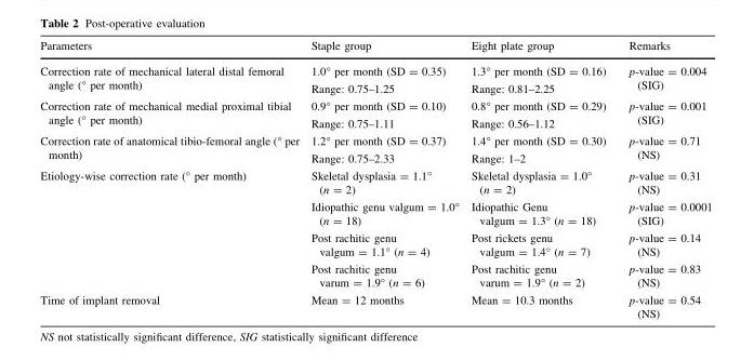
<table><thead><tr><td>Parameters</td><td>Staple group</td><td>Eight plate group</td><td>Remarks</td></tr></thead><tbody><tr><td rowspan="2">Correction rate of mechanical lateral distal femoral angle (° per month)</td><td>1.0° per month (SD = 0.35)</td><td>1.3° per month (SD = 0.16)</td><td rowspan="2">p-value = 0.004 (SIG)</td></tr><tr><td>Range: 0.75–1.25</td><td>Range: 0.81–2.25</td></tr><tr><td rowspan="2">Correction rate of mechanical medial proximal tibial angle (° per month)</td><td>0.9° per month (SD = 0.10)</td><td>0.8° per month (SD = 0.29)</td><td rowspan="2">p-value = 0.001 (SIG)</td></tr><tr><td>Range: 0.75–1.11</td><td>Range: 0.56–1.12</td></tr><tr><td rowspan="2">Correction rate of anatomical tibio-femoral angle (° per month)</td><td>1.2° per month (SD = 0.37)</td><td>1.4° per month (SD = 0.30)</td><td rowspan="2">p-value = 0.71 (NS)</td></tr><tr><td>Range: 0.75–2.33</td><td>Range: 1–2</td></tr><tr><td rowspan="4">Etiology-wise correction rate (° per month)</td><td>Skeletal dysplasia = 1.1° (n = 2)</td><td>Skeletal dysplasia = 1.0° (n = 2)</td><td>p-value = 0.31 (NS)</td></tr><tr><td>Idiopathic genu valgum = 1.0° (n = 18)</td><td>Idiopathic Genu valgum = 1.3° (n = 18)</td><td>p-value = 0.0001 (SIG)</td></tr><tr><td>Post rachitic genu valgum = 1.1° (n = 4)</td><td>Post rickets genu valgum = 1.4° (n = 7)</td><td>p-value = 0.14 (NS)</td></tr><tr><td>Post rachitic genu varum = 1.9° (n = 6)</td><td>Post rachitic genu varum = 1.9° (n = 2)</td><td>p-value = 0.83 (NS)</td></tr><tr><td>Time of implant removal</td><td>Mean = 12 months</td><td>Mean = 10.3 months</td><td>p-value = 0.54 (NS)</td></tr></tbody></table>